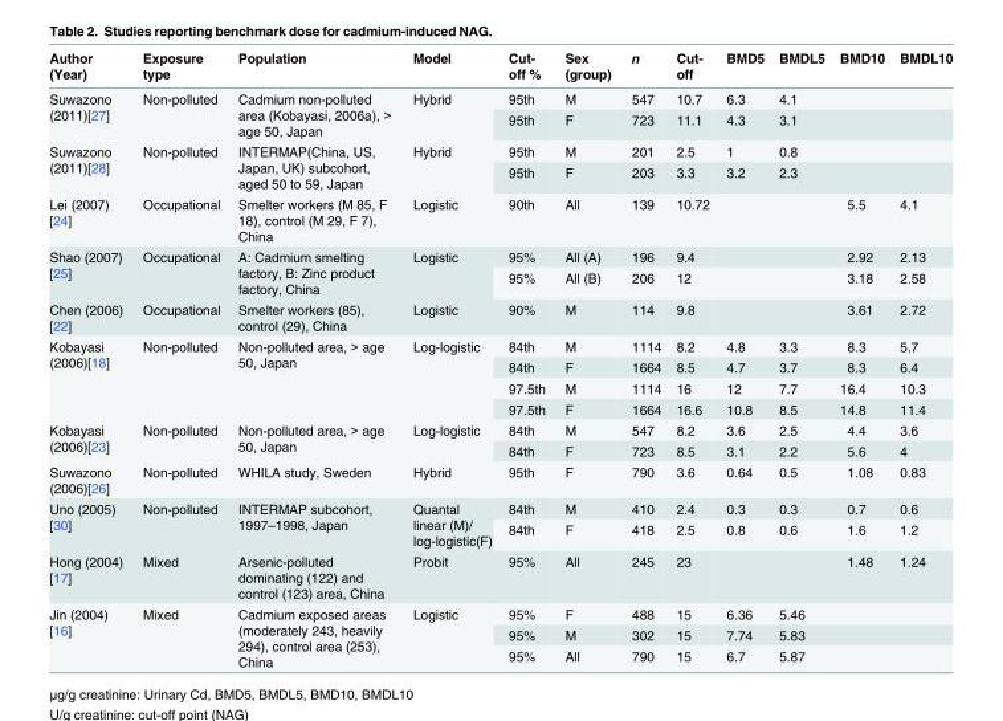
<table><thead><tr><td>Author (Year)</td><td>Exposure type</td><td>Population</td><td>Model</td><td>Cut- off %</td><td>Sex (group)</td><td>n</td><td>Cut- off</td><td>BMD5</td><td>BMDL5</td><td>BMD10</td><td>BMDL10</td></tr></thead><tbody><tr><td rowspan="2">Suwazono (2011)[27]</td><td rowspan="2">Non-polluted</td><td rowspan="2">Cadmium non-polluted area (Kobayasi, 2006a), &gt; age 50, Japan</td><td rowspan="2">Hybrid</td><td>95th</td><td>M</td><td>547</td><td>10.7</td><td>6.3</td><td>4.1</td><td></td><td></td></tr><tr><td>95th</td><td>F</td><td>723</td><td>11.1</td><td>4.3</td><td>3.1</td><td></td><td></td></tr><tr><td rowspan="2">Suwazono (2011)[28]</td><td rowspan="2">Non-polluted</td><td rowspan="2">INTERMAP(China, US, Japan, UK) subcohort, aged 50 to 59, Japan</td><td rowspan="2">Hybrid</td><td>95th</td><td>M</td><td>201</td><td>2.5</td><td>1</td><td>0.8</td><td></td><td></td></tr><tr><td>95th</td><td>F</td><td>203</td><td>3.3</td><td>3.2</td><td>2.3</td><td></td><td></td></tr><tr><td>Lei (2007) [24]</td><td>Occupational</td><td>Smelter workers (M 85, F 18), control (M 29, F 7), China</td><td>Logistic</td><td>90th</td><td>All</td><td>139</td><td>10.72</td><td></td><td></td><td>5.5</td><td>4.1</td></tr><tr><td rowspan="2">Shao (2007) [25]</td><td rowspan="2">Occupational</td><td rowspan="2">A: Cadmium smelting factory, B: Zinc product factory, China</td><td rowspan="2">Logistic</td><td>95%</td><td>All (A)</td><td>196</td><td>9.4</td><td></td><td></td><td>2.92</td><td>2.13</td></tr><tr><td>95%</td><td>All (B)</td><td>206</td><td>12</td><td></td><td></td><td>3.18</td><td>2.58</td></tr><tr><td>Chen (2006) [22]</td><td>Occupational</td><td>Smelter workers (85), control (29), China</td><td>Logistic</td><td>90%</td><td>M</td><td>114</td><td>9.8</td><td></td><td></td><td>3.61</td><td>2.72</td></tr><tr><td rowspan="4">Kobayasi (2006)[18]</td><td rowspan="4">Non-polluted</td><td rowspan="4">Non-polluted area, &gt; age 50, Japan</td><td rowspan="4">Log-logistic</td><td>84th</td><td>M</td><td>1114</td><td>8.2</td><td>4.8</td><td>3.3</td><td>8.3</td><td>5.7</td></tr><tr><td>84th</td><td>F</td><td>1664</td><td>8.5</td><td>4.7</td><td>3.7</td><td>8.3</td><td>6.4</td></tr><tr><td>97.5th</td><td>M</td><td>1114</td><td>16</td><td>12</td><td>7.7</td><td>16.4</td><td>10.3</td></tr><tr><td>97.5th</td><td>F</td><td>1664</td><td>16.6</td><td>10.8</td><td>8.5</td><td>14.8</td><td>11.4</td></tr><tr><td rowspan="2">Kobayasi (2006)[23]</td><td rowspan="2">Non-polluted</td><td rowspan="2">Non-polluted area, &gt; age 50, Japan</td><td rowspan="2">Log-logistic</td><td>84th</td><td>M</td><td>547</td><td>8.2</td><td>3.6</td><td>2.5</td><td>4.4</td><td>3.6</td></tr><tr><td>84th</td><td>F</td><td>723</td><td>8.5</td><td>3.1</td><td>2.2</td><td>5.6</td><td>4</td></tr><tr><td>Suwazono (2006)[26]</td><td>Non-polluted</td><td>WHILA study, Sweden</td><td>Hybrid</td><td>95th</td><td>F</td><td>790</td><td>3.6</td><td>0.64</td><td>0.5</td><td>1.08</td><td>0.83</td></tr><tr><td rowspan="2">Uno (2005) [30]</td><td rowspan="2">Non-polluted</td><td rowspan="2">INTERMAP subcohort, 1997–1998, Japan</td><td rowspan="2">Quantal linear (M)/ log-logistic(F)</td><td>84th</td><td>M</td><td>410</td><td>2.4</td><td>0.3</td><td>0.3</td><td>0.7</td><td>0.6</td></tr><tr><td>84th</td><td>F</td><td>418</td><td>2.5</td><td>0.8</td><td>0.6</td><td>1.6</td><td>1.2</td></tr><tr><td>Hong (2004) [17]</td><td>Mixed</td><td>Arsenic-polluted dominating (122) and control (123) area, China</td><td>Probit</td><td>95%</td><td>All</td><td>245</td><td>23</td><td></td><td></td><td>1.48</td><td>1.24</td></tr><tr><td rowspan="3">Jin (2004) [16]</td><td rowspan="3">Mixed</td><td rowspan="3">Cadmium exposed areas (moderately 243, heavily 294), control area (253), China</td><td rowspan="3">Logistic</td><td>95%</td><td>F</td><td>488</td><td>15</td><td>6.36</td><td>5.46</td><td></td><td></td></tr><tr><td>95%</td><td>M</td><td>302</td><td>15</td><td>7.74</td><td>5.83</td><td></td><td></td></tr><tr><td>95%</td><td>All</td><td>790</td><td>15</td><td>6.7</td><td>5.87</td><td></td><td></td></tr></tbody></table>